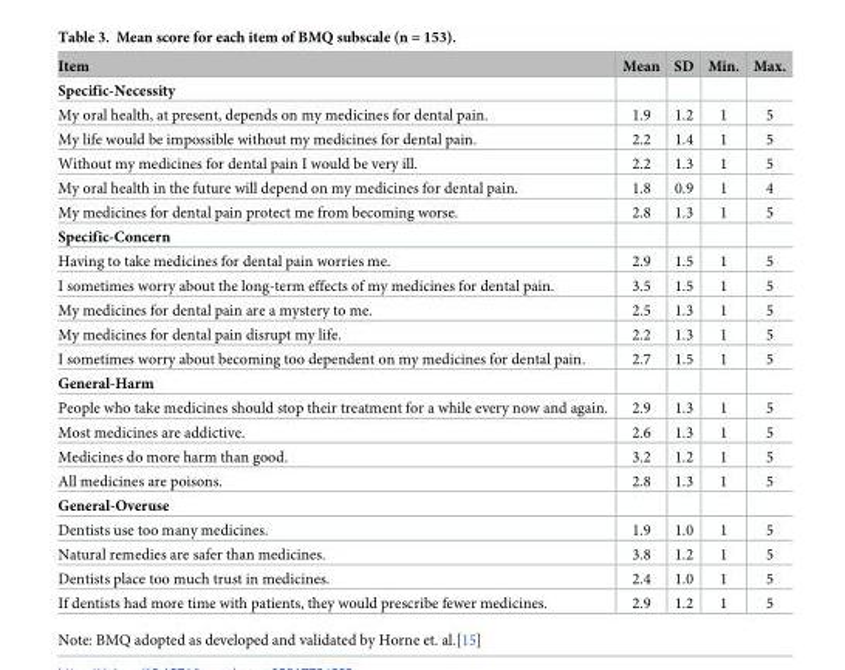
<table><thead><tr><td>Item</td><td>Mean</td><td>SD</td><td>Min.</td><td>Max.</td></tr></thead><tbody><tr><td colspan="5">Specific-Necessity</td></tr><tr><td>My oral health, at present, depends on my medicines for dental pain.</td><td>1.9</td><td>1.2</td><td>1</td><td>5</td></tr><tr><td>My life would be impossible without my medicines for dental pain.</td><td>2.2</td><td>1.4</td><td>1</td><td>5</td></tr><tr><td>Without my medicines for dental pain I would be very ill.</td><td>2.2</td><td>1.3</td><td>1</td><td>5</td></tr><tr><td>My oral health in the future will depend on my medicines for dental pain.</td><td>1.8</td><td>0.9</td><td>1</td><td>4</td></tr><tr><td>My medicines for dental pain protect me from becoming worse.</td><td>2.8</td><td>1.3</td><td>1</td><td>5</td></tr><tr><td colspan="5">Specific-Concern</td></tr><tr><td>Having to take medicines for dental pain worries me.</td><td>2.9</td><td>1.5</td><td>1</td><td>5</td></tr><tr><td>I sometimes worry about the long-term effects of my medicines for dental pain.</td><td>3.5</td><td>1.5</td><td>1</td><td>5</td></tr><tr><td>My medicines for dental pain are a mystery to me.</td><td>2.5</td><td>1.3</td><td>1</td><td>5</td></tr><tr><td>My medicines for dental pain disrupt my life.</td><td>2.2</td><td>1.3</td><td>1</td><td>5</td></tr><tr><td>I sometimes worry about becoming too dependent on my medicines for dental pain.</td><td>2.7</td><td>1.5</td><td>1</td><td>5</td></tr><tr><td colspan="5">General-Harm</td></tr><tr><td>People who take medicines should stop their treatment for a while every now and again.</td><td>2.9</td><td>1.3</td><td>1</td><td>5</td></tr><tr><td>Most medicines are addictive.</td><td>2.6</td><td>1.3</td><td>1</td><td>5</td></tr><tr><td>Medicines do more harm than good.</td><td>3.2</td><td>1.2</td><td>1</td><td>5</td></tr><tr><td>All medicines are poisons.</td><td>2.8</td><td>1.3</td><td>1</td><td>5</td></tr><tr><td colspan="5">General-Overuse</td></tr><tr><td>Dentists use too many medicines.</td><td>1.9</td><td>1.0</td><td>1</td><td>5</td></tr><tr><td>Natural remedies are safer than medicines.</td><td>3.8</td><td>1.2</td><td>1</td><td>5</td></tr><tr><td>Dentists place too much trust in medicines.</td><td>2.4</td><td>1.0</td><td>1</td><td>5</td></tr><tr><td>If dentists had more time with patients, they would prescribe fewer medicines.</td><td>2.9</td><td>1.2</td><td>1</td><td>5</td></tr></tbody></table>